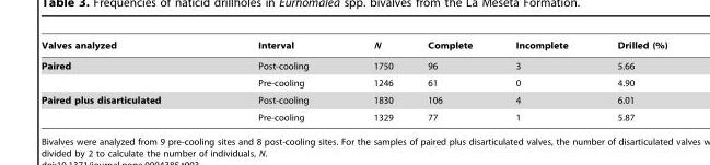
<table><thead><tr><td>Valves analyzed</td><td>Interval</td><td>N</td><td>Complete</td><td>Incomplete</td><td>Drilled (%)</td></tr></thead><tbody><tr><td rowspan="2">Paired</td><td>Post-cooling</td><td>1750</td><td>96</td><td>3</td><td>5.66</td></tr><tr><td>Pre-cooling</td><td>1246</td><td>61</td><td>0</td><td>4.90</td></tr><tr><td rowspan="2">Paired plus disarticulated</td><td>Post-cooling</td><td>1830</td><td>106</td><td>4</td><td>6.01</td></tr><tr><td>Pre-cooling</td><td>1329</td><td>77</td><td>1</td><td>5.87</td></tr></tbody></table>